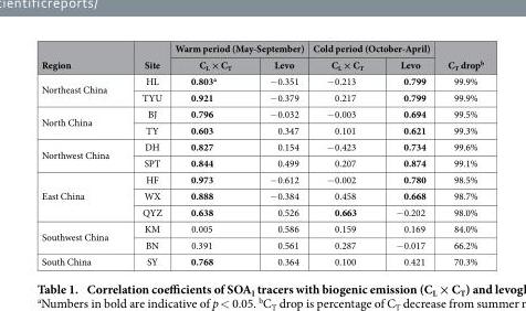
<table><thead><tr><td rowspan="2">Region</td><td rowspan="2">Site</td><td colspan="2">Warm period (May-September)</td><td colspan="2">Cold period (October-April)</td><td rowspan="2">C<sub>T</sub> drop<sup>b</sup></td></tr><tr><td>C<sub>L</sub> × C<sub>T</sub></td><td>Levo</td><td>C<sub>L</sub> × C<sub>T</sub></td><td>Levo</td></tr></thead><tbody><tr><td rowspan="2">Northeast China</td><td>HL</td><td>0.803<sup>a</sup></td><td>− 0.351</td><td>− 0.213</td><td>0.799</td><td>99.9%</td></tr><tr><td>TYU</td><td>0.921</td><td>− 0.379</td><td>0.217</td><td>0.799</td><td>99.9%</td></tr><tr><td rowspan="2">North China</td><td>BJ</td><td>0.796</td><td>− 0.032</td><td>− 0.003</td><td>0.694</td><td>99.5%</td></tr><tr><td>TY</td><td>0.603</td><td>0.347</td><td>0.101</td><td>0.621</td><td>99.3%</td></tr><tr><td rowspan="2">Northwest China</td><td>DH</td><td>0.827</td><td>0.154</td><td>− 0.423</td><td>0.734</td><td>99.6%</td></tr><tr><td>SPT</td><td>0.844</td><td>0.499</td><td>0.207</td><td>0.874</td><td>99.1%</td></tr><tr><td rowspan="3">East China</td><td>HF</td><td>0.973</td><td>− 0.612</td><td>− 0.002</td><td>0.780</td><td>98.5%</td></tr><tr><td>WX</td><td>0.888</td><td>− 0.384</td><td>0.458</td><td>0.668</td><td>98.7%</td></tr><tr><td>QYZ</td><td>0.638</td><td>0.526</td><td>0.663</td><td>− 0.202</td><td>98.0%</td></tr><tr><td rowspan="2">Southwest China</td><td>KM</td><td>0.005</td><td>0.586</td><td>0.159</td><td>0.169</td><td>84.0%</td></tr><tr><td>BN</td><td>0.391</td><td>0.561</td><td>0.287</td><td>− 0.017</td><td>66.2%</td></tr><tr><td>South China</td><td>SY</td><td>0.768</td><td>0.364</td><td>0.100</td><td>0.421</td><td>70.3%</td></tr></tbody></table>